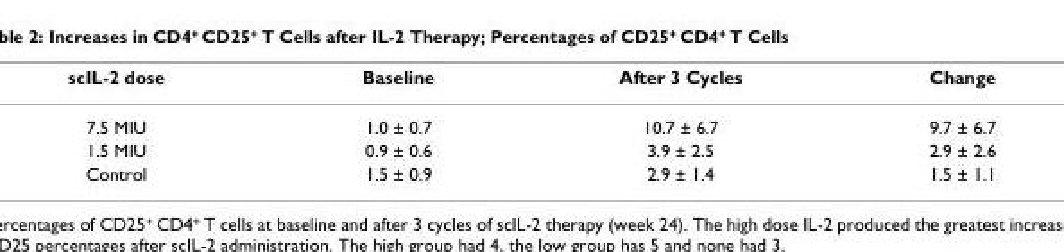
<table><thead><tr><td>scIL-2 dose</td><td>Baseline</td><td>After 3 Cycles</td><td>Change</td></tr></thead><tbody><tr><td>7.5 MIU</td><td>1.0 ± 0.7</td><td>10.7 ± 6.7</td><td>9.7 ± 6.7</td></tr><tr><td>1.5 MIU</td><td>0.9 ± 0.6</td><td>3.9 ± 2.5</td><td>2.9 ± 2.6</td></tr><tr><td>Control</td><td>1.5 ± 0.9</td><td>2.9 ± 1.4</td><td>1.5 ± 1.1</td></tr></tbody></table>